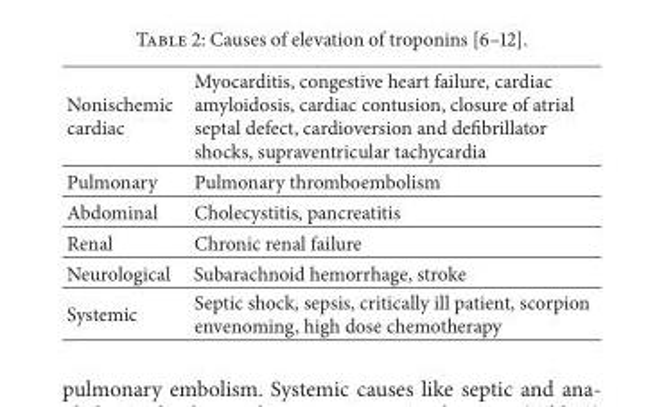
<table><tbody><tr><td>Nonischemic cardiac</td><td>Myocarditis, congestive heart failure, cardiac amyloidosis, cardiac contusion, closure of atrial septal defect, cardioversion and defibrillator shocks, supraventricular tachycardia</td></tr><tr><td>Pulmonary</td><td>Pulmonary thromboembolism</td></tr><tr><td>Abdominal</td><td>Cholecystitis, pancreatitis</td></tr><tr><td>Renal</td><td>Chronic renal failure</td></tr><tr><td>Neurological</td><td>Subarachnoid hemorrhage, stroke</td></tr><tr><td>Systemic</td><td>Septic shock, sepsis, critically ill patient, scorpion envenoming, high dose chemotherapy</td></tr></tbody></table>